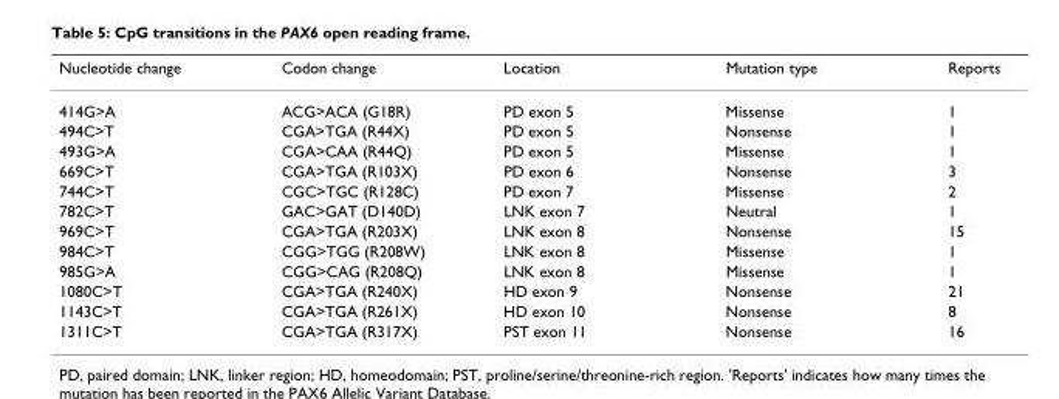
<table><thead><tr><td>Nucleotide change</td><td>Codon change</td><td>Location</td><td>Mutation type</td><td>Reports</td></tr></thead><tbody><tr><td>414G&gt;A</td><td>ACG&gt;ACA (G18R)</td><td>PD exon 5</td><td>Missense</td><td>1</td></tr><tr><td>494C&gt;T</td><td>CGA&gt;TGA (R44X)</td><td>PD exon 5</td><td>Nonsense</td><td>1</td></tr><tr><td>493G&gt;A</td><td>CGA&gt;CAA (R44Q)</td><td>PD exon 5</td><td>Missense</td><td>1</td></tr><tr><td>669C&gt;T</td><td>CGA&gt;TGA (R103X)</td><td>PD exon 6</td><td>Nonsense</td><td>3</td></tr><tr><td>744C&gt;T</td><td>CGC&gt;TGC (R128C)</td><td>PD exon 7</td><td>Missense</td><td>2</td></tr><tr><td>782C&gt;T</td><td>GAC&gt;GAT (D140D)</td><td>LNK exon 7</td><td>Neutral</td><td>1</td></tr><tr><td>969C&gt;T</td><td>CGA&gt;TGA (R203X)</td><td>LNK exon 8</td><td>Nonsense</td><td>15</td></tr><tr><td>984C&gt;T</td><td>CGG&gt;TGG (R208W)</td><td>LNK exon 8</td><td>Missense</td><td>1</td></tr><tr><td>985G&gt;A</td><td>CGG&gt;CAG (R208Q)</td><td>LNK exon 8</td><td>Missense</td><td>1</td></tr><tr><td>1080C&gt;T</td><td>CGA&gt;TGA (R240X)</td><td>HD exon 9</td><td>Nonsense</td><td>21</td></tr><tr><td>1143C&gt;T</td><td>CGA&gt;TGA (R261X)</td><td>HD exon 10</td><td>Nonsense</td><td>8</td></tr><tr><td>1311C&gt;T</td><td>CGA&gt;TGA (R317X)</td><td>PST exon 11</td><td>Nonsense</td><td>16</td></tr></tbody></table>